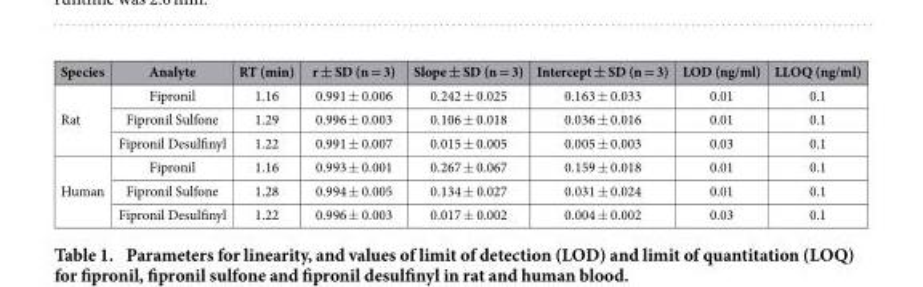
<table><thead><tr><td>Species</td><td>Analyte</td><td>RT (min)</td><td>r ± SD (n = 3)</td><td>Slope ± SD (n = 3)</td><td>Intercept ± SD (n = 3)</td><td>LOD (ng/ml)</td><td>LLOQ (ng/ml)</td></tr></thead><tbody><tr><td rowspan="3">Rat</td><td>Fipronil</td><td>1.16</td><td>0.991 ± 0.006</td><td>0.242 ± 0.025</td><td>0.163 ± 0.033</td><td>0.01</td><td>0.1</td></tr><tr><td>Fipronil Sulfone</td><td>1.29</td><td>0.996 ± 0.003</td><td>0.106 ± 0.018</td><td>0.036 ± 0.016</td><td>0.01</td><td>0.1</td></tr><tr><td>Fipronil Desulfinyl</td><td>1.22</td><td>0.991 ± 0.007</td><td>0.015 ± 0.005</td><td>0.005 ± 0.003</td><td>0.03</td><td>0.1</td></tr><tr><td rowspan="3">Human</td><td>Fipronil</td><td>1.16</td><td>0.993 ± 0.001</td><td>0.267 ± 0.067</td><td>0.159 ± 0.018</td><td>0.01</td><td>0.1</td></tr><tr><td>Fipronil Sulfone</td><td>1.28</td><td>0.994 ± 0.005</td><td>0.134 ± 0.027</td><td>0.031 ± 0.024</td><td>0.01</td><td>0.1</td></tr><tr><td>Fipronil Desulfinyl</td><td>1.22</td><td>0.996 ± 0.003</td><td>0.017 ± 0.002</td><td>0.004 ± 0.002</td><td>0.03</td><td>0.1</td></tr></tbody></table>